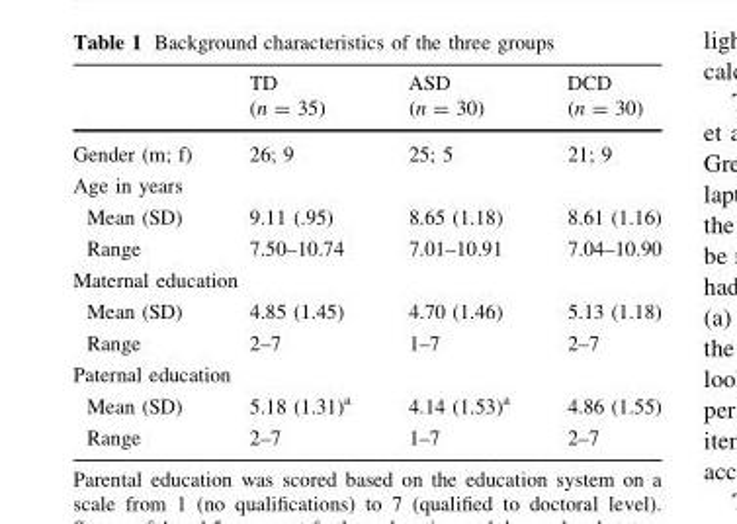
<table><thead><tr><td></td><td>TD (n = 35)</td><td>ASD (n = 30)</td><td>DCD (n = 30)</td></tr></thead><tbody><tr><td>Gender (m; f)</td><td>26; 9</td><td>25; 5</td><td>21; 9</td></tr><tr><td colspan="4">Age in years</td></tr><tr><td>Mean (SD)</td><td>9.11 (.95)</td><td>8.65 (1.18)</td><td>8.61 (1.16)</td></tr><tr><td>Range</td><td>7.50–10.74</td><td>7.01–10.91</td><td>7.04–10.90</td></tr><tr><td colspan="4">Maternal education</td></tr><tr><td>Mean (SD)</td><td>4.85 (1.45)</td><td>4.70 (1.46)</td><td>5.13 (1.18)</td></tr><tr><td>Range</td><td>2–7</td><td>1–7</td><td>2–7</td></tr><tr><td colspan="4">Paternal education</td></tr><tr><td>Mean (SD)</td><td>5.18 (1.31)<sup>a</sup></td><td>4.14 (1.53)<sup>a</sup></td><td>4.86 (1.55)</td></tr><tr><td>Range</td><td>2–7</td><td>1–7</td><td>2–7</td></tr></tbody></table>